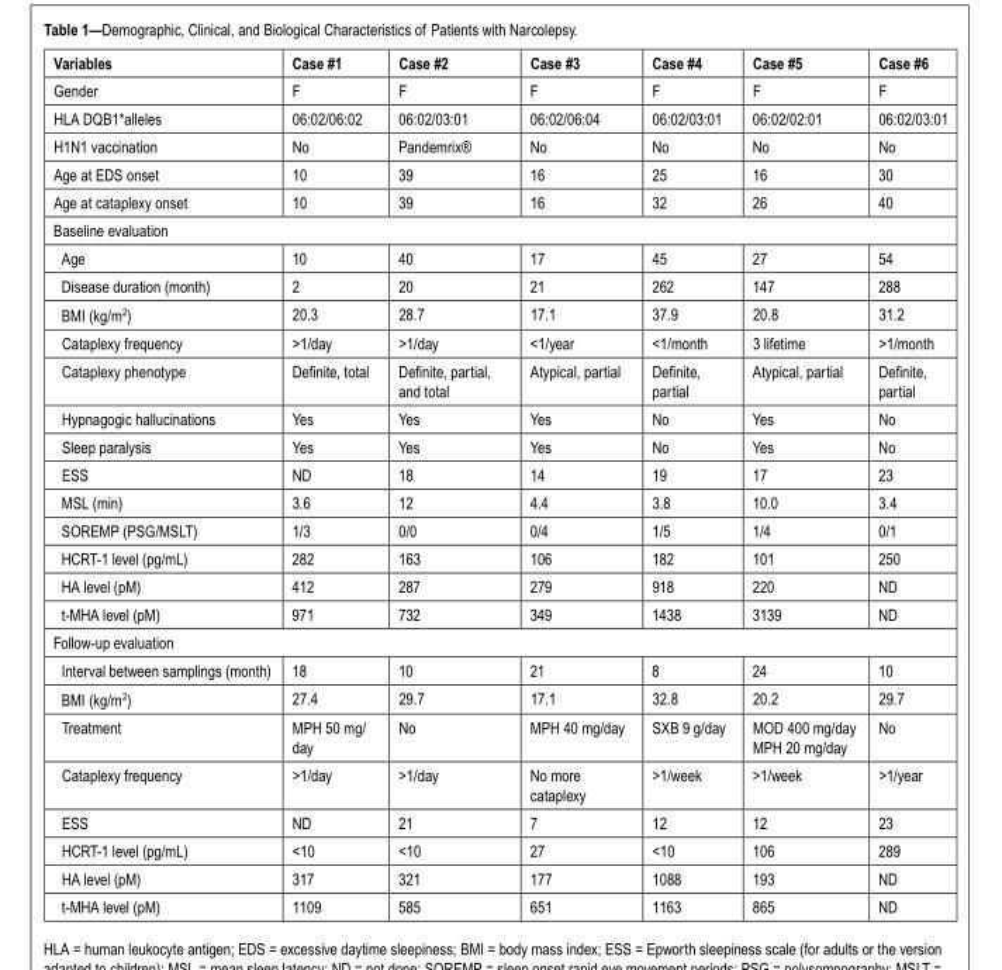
<table><thead><tr><td>Variables</td><td>Case #1</td><td>Case #2</td><td>Case #3</td><td>Case #4</td><td>Case #5</td><td>Case #6</td></tr></thead><tbody><tr><td>Gender</td><td>F</td><td>F</td><td>F</td><td>F</td><td>F</td><td>F</td></tr><tr><td>HLA DQB1*alleles</td><td>06:02/06:02</td><td>06:02/03:01</td><td>06:02/06:04</td><td>06:02/03:01</td><td>06:02/02:01</td><td>06:02/03:01</td></tr><tr><td>H1N1 vaccination</td><td>No</td><td>Pandemrix®</td><td>No</td><td>No</td><td>No</td><td>No</td></tr><tr><td>Age at EDS onset</td><td>10</td><td>39</td><td>16</td><td>25</td><td>16</td><td>30</td></tr><tr><td>Age at cataplexy onset</td><td>10</td><td>39</td><td>16</td><td>32</td><td>26</td><td>40</td></tr><tr><td colspan="7">Baseline evaluation</td></tr><tr><td>Age</td><td>10</td><td>40</td><td>17</td><td>45</td><td>27</td><td>54</td></tr><tr><td>Disease duration (month)</td><td>2</td><td>20</td><td>21</td><td>262</td><td>147</td><td>288</td></tr><tr><td>BMI (kg/m<sup>2</sup>)</td><td>20.3</td><td>28.7</td><td>17.1</td><td>37.9</td><td>20.8</td><td>31.2</td></tr><tr><td>Cataplexy frequency</td><td>&gt;1/day</td><td>&gt;1/day</td><td>&lt;1/year</td><td>&lt;1/month</td><td>3 lifetime</td><td>&gt;1/month</td></tr><tr><td>Cataplexy phenotype</td><td>Definite, total</td><td>Definite, partial, and total</td><td>Atypical, partial</td><td>Definite, partial</td><td>Atypical, partial</td><td>Definite, partial</td></tr><tr><td>Hypnagogic hallucinations</td><td>Yes</td><td>Yes</td><td>Yes</td><td>No</td><td>Yes</td><td>No</td></tr><tr><td>Sleep paralysis</td><td>Yes</td><td>Yes</td><td>Yes</td><td>No</td><td>Yes</td><td>No</td></tr><tr><td>ESS</td><td>ND</td><td>18</td><td>14</td><td>19</td><td>17</td><td>23</td></tr><tr><td>MSL (min)</td><td>3.6</td><td>12</td><td>4.4</td><td>3.8</td><td>10.0</td><td>3.4</td></tr><tr><td>SOREMP (PSG/MSLT)</td><td>1/3</td><td>0/0</td><td>0/4</td><td>1/5</td><td>1/4</td><td>0/1</td></tr><tr><td>HCRT-1 level (pg/mL)</td><td>282</td><td>163</td><td>106</td><td>182</td><td>101</td><td>250</td></tr><tr><td>HA level (pM)</td><td>412</td><td>287</td><td>279</td><td>918</td><td>220</td><td>ND</td></tr><tr><td>t-MHA level (pM)</td><td>971</td><td>732</td><td>349</td><td>1438</td><td>3139</td><td>ND</td></tr><tr><td colspan="7">Follow-up evaluation</td></tr><tr><td>Interval between samplings (month)</td><td>18</td><td>10</td><td>21</td><td>8</td><td>24</td><td>10</td></tr><tr><td>BMI (kg/m<sup>2</sup>)</td><td>27.4</td><td>29.7</td><td>17.1</td><td>32.8</td><td>20.2</td><td>29.7</td></tr><tr><td>Treatment</td><td>MPH 50 mg/ day</td><td>No</td><td>MPH 40 mg/day</td><td>SXB 9 g/day</td><td>MOD 400 mg/day MPH 20 mg/day</td><td>No</td></tr><tr><td>Cataplexy frequency</td><td>&gt;1/day</td><td>&gt;1/day</td><td>No more cataplexy</td><td>&gt;1/week</td><td>&gt;1/week</td><td>&gt;1/year</td></tr><tr><td>ESS</td><td>ND</td><td>21</td><td>7</td><td>12</td><td>12</td><td>23</td></tr><tr><td>HCRT-1 level (pg/mL)</td><td>&lt;10</td><td>&lt;10</td><td>27</td><td>&lt;10</td><td>106</td><td>289</td></tr><tr><td>HA level (pM)</td><td>317</td><td>321</td><td>177</td><td>1088</td><td>193</td><td>ND</td></tr><tr><td>t-MHA level (pM)</td><td>1109</td><td>585</td><td>651</td><td>1163</td><td>865</td><td>ND</td></tr></tbody></table>